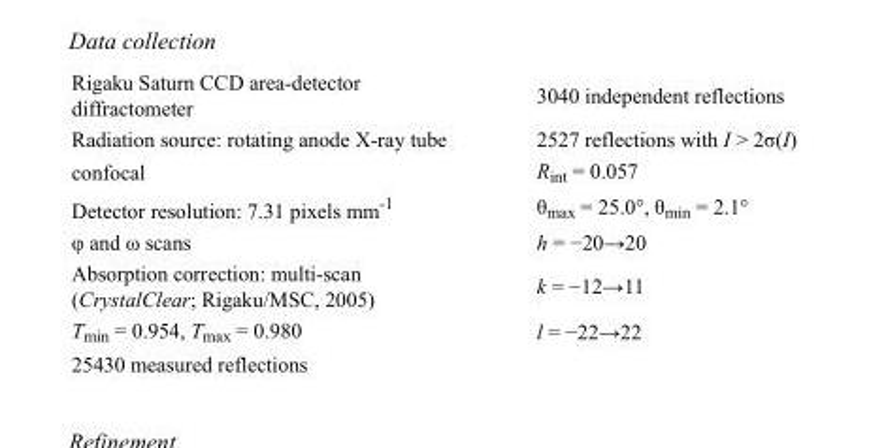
<table><tbody><tr><td>Rigaku Saturn CCD area-detector diffractometer</td><td>3040 independent reflections</td></tr><tr><td>Radiation source: rotating anode X-ray tube</td><td>2527 reflections with I &gt; 2σ(I)</td></tr><tr><td>confocal</td><td>R<sub>int</sub> = 0.057</td></tr><tr><td>Detector resolution: 7.31 pixels mm<sup>-1</sup></td><td>θ<sub>max</sub> = 25.0°, θ<sub>min</sub> = 2.1°</td></tr><tr><td>φ and ω scans</td><td>h = −20→20</td></tr><tr><td>Absorption correction: multi-scan (CrystalClear; Rigaku/MSC, 2005)</td><td>k = −12→11</td></tr><tr><td>T<sub>min</sub> = 0.954, T<sub>max</sub> = 0.980</td><td>l = −22→22</td></tr><tr><td>25430 measured reflections</td><td></td></tr></tbody></table>